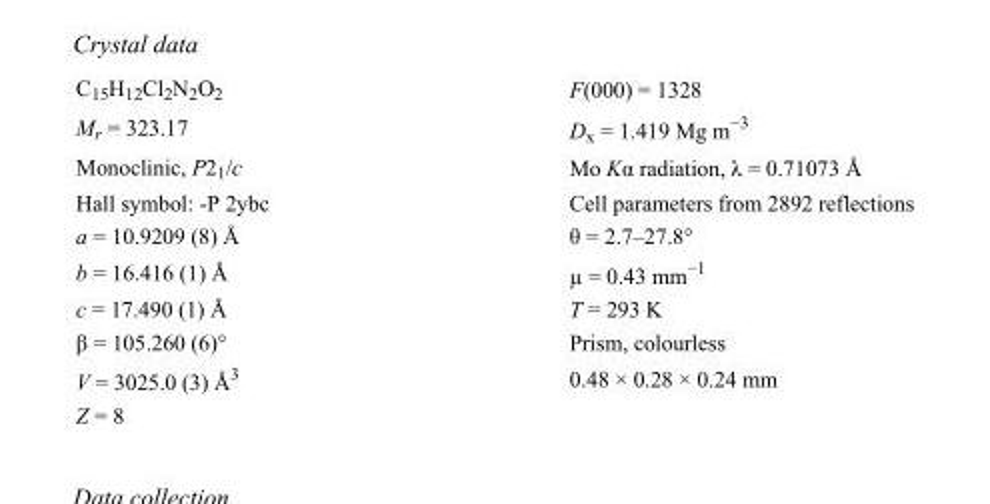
<table><tbody><tr><td>C<sub>15</sub>H<sub>12</sub>Cl<sub>2</sub>N<sub>2</sub>O<sub>2</sub></td><td>F(000) = 1328</td></tr><tr><td>M<sub>r</sub> = 323.17</td><td>D<sub>x</sub> = 1.419 Mg m<sup>−3</sup></td></tr><tr><td>Monoclinic, P2<sub>1</sub>/c</td><td>Mo Kα radiation, λ = 0.71073 Å</td></tr><tr><td>Hall symbol: -P 2ybc</td><td>Cell parameters from 2892 reflections</td></tr><tr><td>a = 10.9209 (8) Å</td><td>θ = 2.7–27.8°</td></tr><tr><td>b = 16.416 (1) Å</td><td>µ = 0.43 mm<sup>−1</sup></td></tr><tr><td>c = 17.490 (1) Å</td><td>T = 293 K</td></tr><tr><td>β = 105.260 (6)°</td><td>Prism, colourless</td></tr><tr><td>V = 3025.0 (3) Å<sup>3</sup></td><td>0.48 × 0.28 × 0.24 mm</td></tr><tr><td>Z = 8</td><td></td></tr></tbody></table>